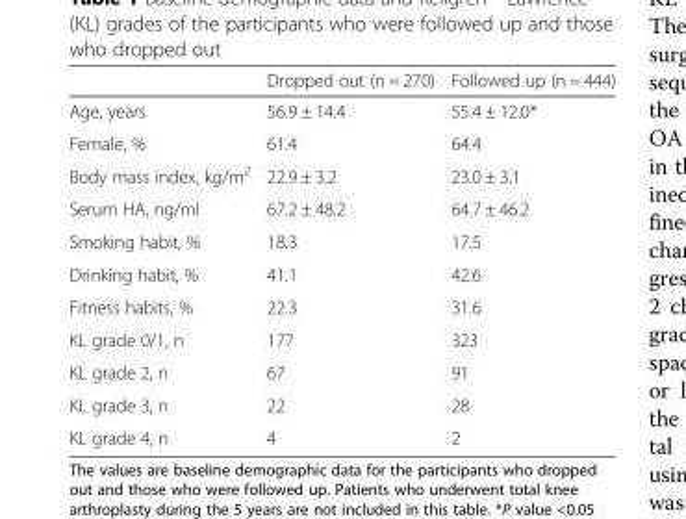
<table><thead><tr><td></td><td>Dropped out (n = 270)</td><td>Followed up (n = 444)</td></tr></thead><tbody><tr><td>Age, years</td><td>56.9 ± 14.4</td><td>55.4 ± 12.0*</td></tr><tr><td>Female, %</td><td>61.4</td><td>64.4</td></tr><tr><td>Body mass index, kg/m<sup>2</sup></td><td>22.9 ± 3.2</td><td>23.0 ± 3.1</td></tr><tr><td>Serum HA, ng/ml</td><td>67.2 ± 48.2</td><td>64.7 ± 46.2</td></tr><tr><td>Smoking habit, %</td><td>18.3</td><td>17.5</td></tr><tr><td>Drinking habit, %</td><td>41.1</td><td>42.6</td></tr><tr><td>Fitness habits, %</td><td>22.3</td><td>31.6</td></tr><tr><td>KL grade 0/1, n</td><td>177</td><td>323</td></tr><tr><td>KL grade 2, n</td><td>67</td><td>91</td></tr><tr><td>KL grade 3, n</td><td>22</td><td>28</td></tr><tr><td>KL grade 4, n</td><td>4</td><td>2</td></tr></tbody></table>